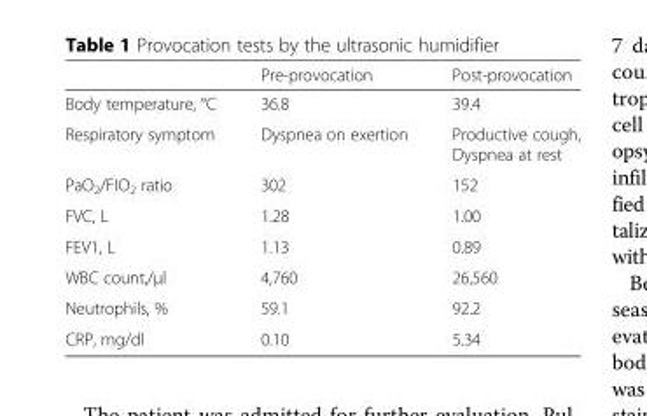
<table><thead><tr><td></td><td>Pre-provocation</td><td>Post-provocation</td></tr></thead><tbody><tr><td>Body temperature, °C</td><td>36.8</td><td>39.4</td></tr><tr><td>Respiratory symptom</td><td>Dyspnea on exertion</td><td>Productive cough, Dyspnea at rest</td></tr><tr><td>PaO<sub>2</sub>/FIO<sub>2</sub> ratio</td><td>302</td><td>152</td></tr><tr><td>FVC, L</td><td>1.28</td><td>1.00</td></tr><tr><td>FEV1, L</td><td>1.13</td><td>0.89</td></tr><tr><td>WBC count,/μl</td><td>4,760</td><td>26,560</td></tr><tr><td>Neutrophils, %</td><td>59.1</td><td>92.2</td></tr><tr><td>CRP, mg/dl</td><td>0.10</td><td>5.34</td></tr></tbody></table>